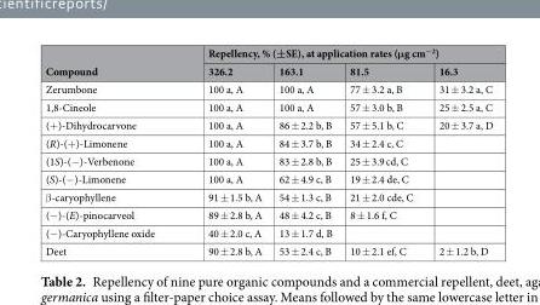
<table><thead><tr><td rowspan="2">Compound</td><td colspan="4">Repellency, % (±SE), at application rates (μg cm<sup>−2</sup>)</td></tr><tr><td>326.2</td><td>163.1</td><td>81.5</td><td>16.3</td></tr></thead><tbody><tr><td>Zerumbone</td><td>100 a, A</td><td>100 a, A</td><td>77 ± 3.2 a, B</td><td>31 ± 3.2 a, C</td></tr><tr><td>1,8-Cineole</td><td>100 a, A</td><td>100 a, A</td><td>57 ± 3.0 b, B</td><td>25 ± 2.5 a, C</td></tr><tr><td>(+)-Dihydrocarvone</td><td>100 a, A</td><td>86 ± 2.2 b, B</td><td>57 ± 5.1 b, C</td><td>20 ± 3.7 a, D</td></tr><tr><td>(R)-(+)-Limonene</td><td>100 a, A</td><td>84 ± 3.7 b, B</td><td>34 ± 2.4 c, C</td><td></td></tr><tr><td>(1S)-(−)-Verbenone</td><td>100 a, A</td><td>83 ± 2.8 b, B</td><td>25 ± 3.9 cd, C</td><td></td></tr><tr><td>(S)-(−)-Limonene</td><td>100 a, A</td><td>62 ± 4.9 c, B</td><td>19 ± 2.4 de, C</td><td></td></tr><tr><td>β-caryophyllene</td><td>91 ± 1.5 b, A</td><td>54 ± 1.3 c, B</td><td>21 ± 2.0 cde, C</td><td></td></tr><tr><td>(−)-(E)-pinocarveol</td><td>89 ± 2.8 b, A</td><td>48 ± 4.2 c, B</td><td>8 ± 1.6 f, C</td><td></td></tr><tr><td>(−)-Caryophyllene oxide</td><td>40 ± 2.0 c, A</td><td>13 ± 1.7 d, B</td><td></td><td></td></tr><tr><td>Deet</td><td>90 ± 2.8 b, A</td><td>53 ± 2.4 c, B</td><td>10 ± 2.1 ef, C</td><td>2 ± 1.2 b, D</td></tr></tbody></table>